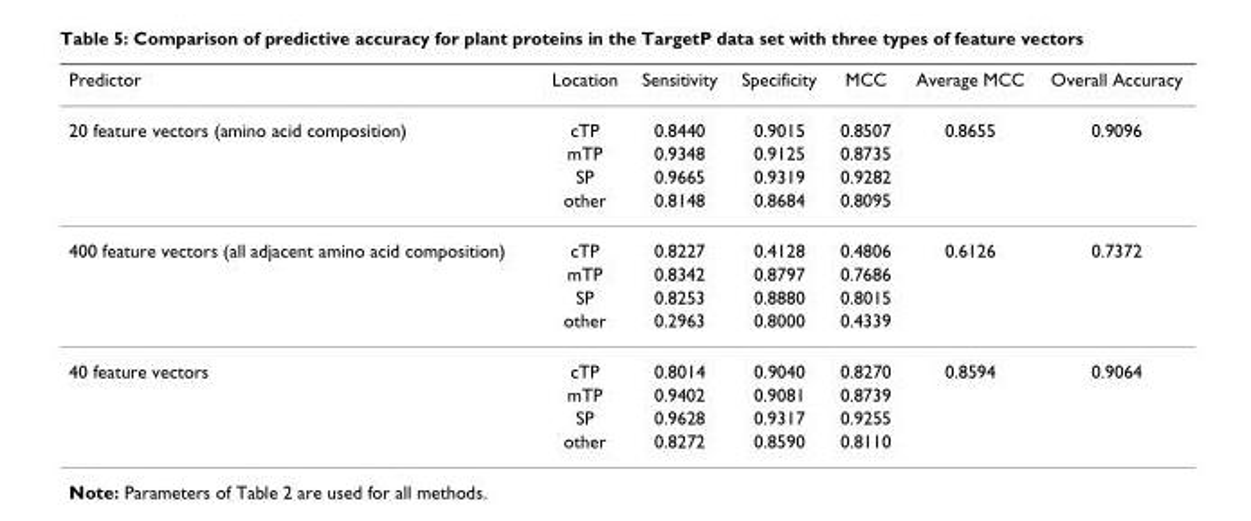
<table><thead><tr><td>Predictor</td><td>Location</td><td>Sensitivity</td><td>Specificity</td><td>MCC</td><td>Average MCC</td><td>Overall Accuracy</td></tr></thead><tbody><tr><td rowspan="4">20 feature vectors (amino acid composition)</td><td>cTP</td><td>0.8440</td><td>0.9015</td><td>0.8507</td><td>0.8655</td><td>0.9096</td></tr><tr><td>mTP</td><td>0.9348</td><td>0.9125</td><td>0.8735</td><td></td><td></td></tr><tr><td>SP</td><td>0.9665</td><td>0.9319</td><td>0.9282</td><td></td><td></td></tr><tr><td>other</td><td>0.8148</td><td>0.8684</td><td>0.8095</td><td></td><td></td></tr><tr><td rowspan="4">400 feature vectors (all adjacent amino acid composition)</td><td>cTP</td><td>0.8227</td><td>0.4128</td><td>0.4806</td><td>0.6126</td><td>0.7372</td></tr><tr><td>mTP</td><td>0.8342</td><td>0.8797</td><td>0.7686</td><td></td><td></td></tr><tr><td>SP</td><td>0.8253</td><td>0.8880</td><td>0.8015</td><td></td><td></td></tr><tr><td>other</td><td>0.2963</td><td>0.8000</td><td>0.4339</td><td></td><td></td></tr><tr><td rowspan="4">40 feature vectors</td><td>cTP</td><td>0.8014</td><td>0.9040</td><td>0.8270</td><td>0.8594</td><td>0.9064</td></tr><tr><td>mTP</td><td>0.9402</td><td>0.9081</td><td>0.8739</td><td></td><td></td></tr><tr><td>SP</td><td>0.9628</td><td>0.9317</td><td>0.9255</td><td></td><td></td></tr><tr><td>other</td><td>0.8272</td><td>0.8590</td><td>0.8110</td><td></td><td></td></tr></tbody></table>